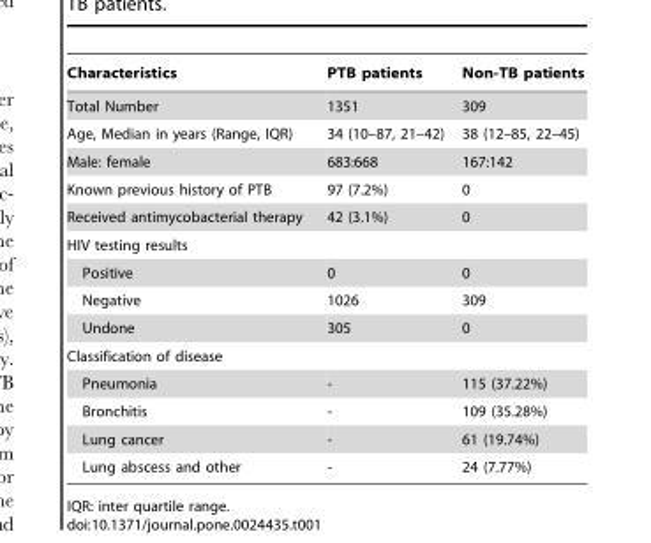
<table><thead><tr><td>Characteristics</td><td>PTB patients</td><td>Non-TB patients</td></tr></thead><tbody><tr><td>Total Number</td><td>1351</td><td>309</td></tr><tr><td>Age, Median in years (Range, IQR)</td><td>34 (10–87, 21–42)</td><td>38 (12–85, 22–45)</td></tr><tr><td>Male: female</td><td>683:668</td><td>167:142</td></tr><tr><td>Known previous history of PTB</td><td>97 (7.2%)</td><td>0</td></tr><tr><td>Received antimycobacterial therapy</td><td>42 (3.1%)</td><td>0</td></tr><tr><td colspan="3">HIV testing results</td></tr><tr><td>Positive</td><td>0</td><td>0</td></tr><tr><td>Negative</td><td>1026</td><td>309</td></tr><tr><td>Undone</td><td>305</td><td>0</td></tr><tr><td colspan="3">Classification of disease</td></tr><tr><td>Pneumonia</td><td>-</td><td>115 (37.22%)</td></tr><tr><td>Bronchitis</td><td>-</td><td>109 (35.28%)</td></tr><tr><td>Lung cancer</td><td>-</td><td>61 (19.74%)</td></tr><tr><td>Lung abscess and other</td><td>-</td><td>24 (7.77%)</td></tr></tbody></table>